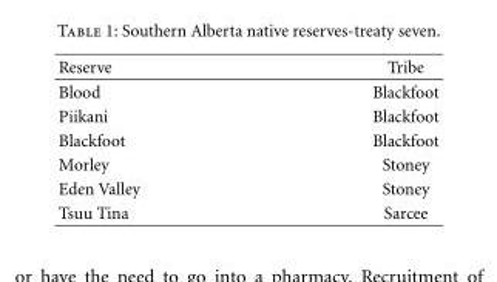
<table><thead><tr><td>Reserve</td><td>Tribe</td></tr></thead><tbody><tr><td>Blood</td><td>Blackfoot</td></tr><tr><td>Piikani</td><td>Blackfoot</td></tr><tr><td>Blackfoot</td><td>Blackfoot</td></tr><tr><td>Morley</td><td>Stoney</td></tr><tr><td>Eden Valley</td><td>Stoney</td></tr><tr><td>Tsuu Tina</td><td>Sarcee</td></tr></tbody></table>